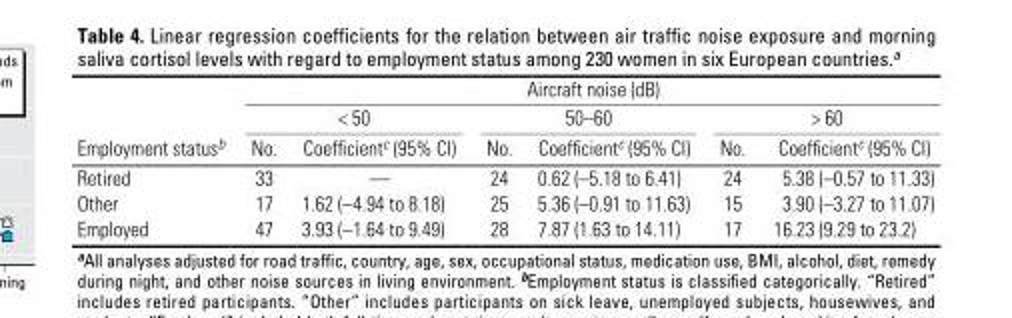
<table><thead><tr><td rowspan="3">Employment status<sup>b</sup></td><td colspan="6">Aircraft noise (dB)</td></tr><tr><td colspan="2">&lt; 50</td><td colspan="2">50–60</td><td colspan="2">&gt; 60</td></tr><tr><td>No.</td><td>Coefficient<sup>c</sup> (95% CI)</td><td>No.</td><td>Coefficient<sup>c</sup> (95% CI)</td><td>No.</td><td>Coefficient<sup>c</sup> (95% CI)</td></tr></thead><tbody><tr><td>Retired</td><td>33</td><td>—</td><td>24</td><td>0.62 (–5.18 to 6.41)</td><td>24</td><td>5.38 (–0.57 to 11.33)</td></tr><tr><td>Other</td><td>17</td><td>1.62 (–4.94 to 8.18)</td><td>25</td><td>5.36 (–0.91 to 11.63)</td><td>15</td><td>3.90 (–3.27 to 11.07)</td></tr><tr><td>Employed</td><td>47</td><td>3.93 (–1.64 to 9.49)</td><td>28</td><td>7.87 (1.63 to 14.11)</td><td>17</td><td>16.23 (9.29 to 23.2)</td></tr></tbody></table>